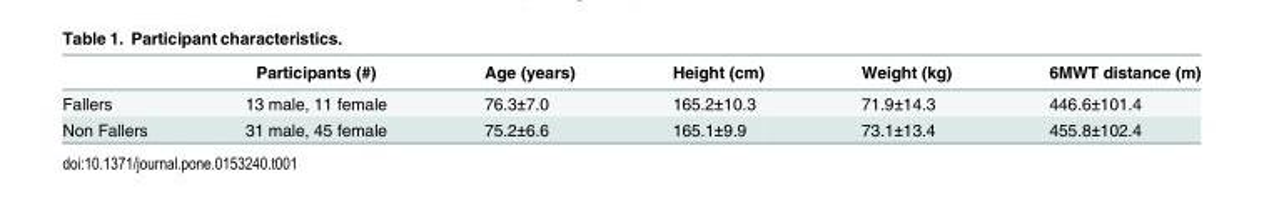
<table><thead><tr><td></td><td>Participants (#)</td><td>Age (years)</td><td>Height (cm)</td><td>Weight (kg)</td><td>6MWT distance (m)</td></tr></thead><tbody><tr><td>Fallers</td><td>13 male, 11 female</td><td>76.3±7.0</td><td>165.2±10.3</td><td>71.9±14.3</td><td>446.6±101.4</td></tr><tr><td>Non Fallers</td><td>31 male, 45 female</td><td>75.2±6.6</td><td>165.1±9.9</td><td>73.1±13.4</td><td>455.8±102.4</td></tr></tbody></table>